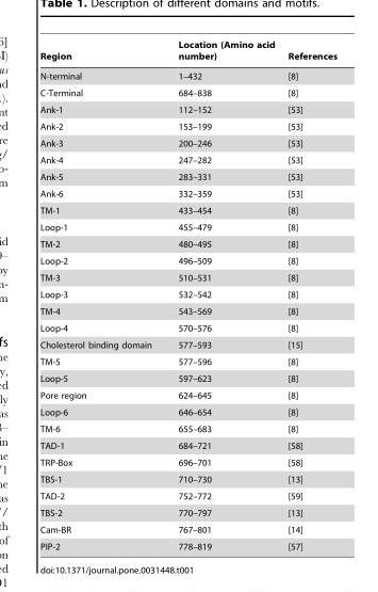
<table><thead><tr><td>Region</td><td>Location (Amino acid number)</td><td>References</td></tr></thead><tbody><tr><td>N-terminal</td><td>1–432</td><td>[8]</td></tr><tr><td>C-Terminal</td><td>684–838</td><td>[8]</td></tr><tr><td>Ank-1</td><td>112–152</td><td>[53]</td></tr><tr><td>Ank-2</td><td>153–199</td><td>[53]</td></tr><tr><td>Ank-3</td><td>200–246</td><td>[53]</td></tr><tr><td>Ank-4</td><td>247–282</td><td>[53]</td></tr><tr><td>Ank-5</td><td>283–331</td><td>[53]</td></tr><tr><td>Ank-6</td><td>332–359</td><td>[53]</td></tr><tr><td>TM-1</td><td>433–454</td><td>[8]</td></tr><tr><td>Loop-1</td><td>455–479</td><td>[8]</td></tr><tr><td>TM-2</td><td>480–495</td><td>[8]</td></tr><tr><td>Loop-2</td><td>496–509</td><td>[8]</td></tr><tr><td>TM-3</td><td>510–531</td><td>[8]</td></tr><tr><td>Loop-3</td><td>532–542</td><td>[8]</td></tr><tr><td>TM-4</td><td>543–569</td><td>[8]</td></tr><tr><td>Loop-4</td><td>570–576</td><td>[8]</td></tr><tr><td>Cholesterol binding domain</td><td>577–593</td><td>[15]</td></tr><tr><td>TM-5</td><td>577–596</td><td>[8]</td></tr><tr><td>Loop-5</td><td>597–623</td><td>[8]</td></tr><tr><td>Pore region</td><td>624–645</td><td>[8]</td></tr><tr><td>Loop-6</td><td>646–654</td><td>[8]</td></tr><tr><td>TM-6</td><td>655–683</td><td>[8]</td></tr><tr><td>TAD-1</td><td>684–721</td><td>[58]</td></tr><tr><td>TRP-Box</td><td>696–701</td><td>[58]</td></tr><tr><td>TBS-1</td><td>710–730</td><td>[13]</td></tr><tr><td>TAD-2</td><td>752–772</td><td>[59]</td></tr><tr><td>TBS-2</td><td>770–797</td><td>[13]</td></tr><tr><td>Cam-BR</td><td>767–801</td><td>[14]</td></tr><tr><td>PIP-2</td><td>778–819</td><td>[57]</td></tr></tbody></table>